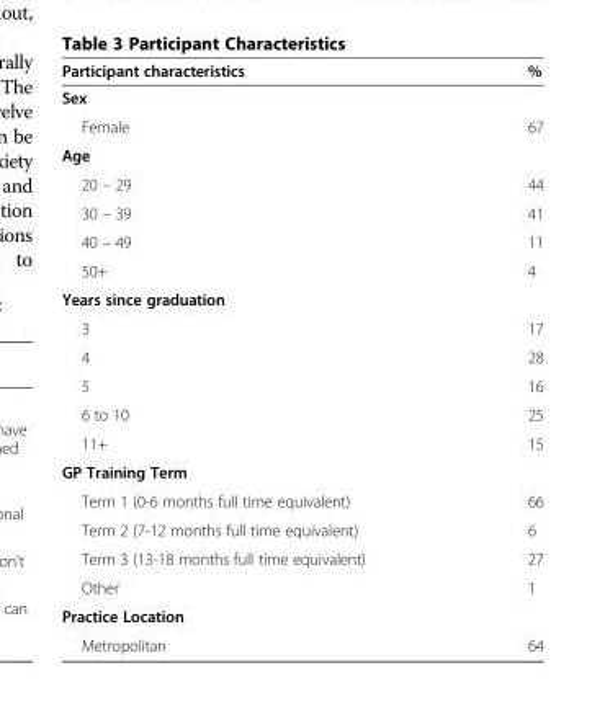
<table><thead><tr><td>Participant characteristics</td><td>%</td></tr></thead><tbody><tr><td colspan="2">Sex</td></tr><tr><td>Female</td><td>67</td></tr><tr><td colspan="2">Age</td></tr><tr><td>20 – 29</td><td>44</td></tr><tr><td>30 – 39</td><td>41</td></tr><tr><td>40 – 49</td><td>11</td></tr><tr><td>50+</td><td>4</td></tr><tr><td colspan="2">Years since graduation</td></tr><tr><td>3</td><td>17</td></tr><tr><td>4</td><td>28</td></tr><tr><td>5</td><td>16</td></tr><tr><td>6 to 10</td><td>25</td></tr><tr><td>11+</td><td>15</td></tr><tr><td colspan="2">GP Training Term</td></tr><tr><td>Term 1 (0-6 months full time equivalent)</td><td>66</td></tr><tr><td>Term 2 (7-12 months full time equivalent)</td><td>6</td></tr><tr><td>Term 3 (13-18 months full time equivalent)</td><td>27</td></tr><tr><td>Other</td><td>1</td></tr><tr><td colspan="2">Practice Location</td></tr><tr><td>Metropolitan</td><td>64</td></tr></tbody></table>